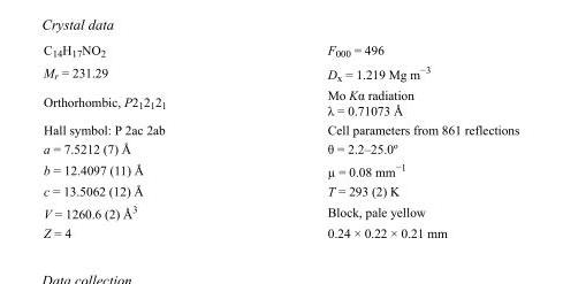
<table><tbody><tr><td>C<sub>14</sub>H<sub>17</sub>NO<sub>2</sub></td><td>F<sub>000</sub> = 496</td></tr><tr><td>M<sub>r</sub> = 231.29</td><td>D<sub>x</sub> = 1.219 Mg m<sup>−3</sup></td></tr><tr><td>Orthorhombic, P2<sub>1</sub>2<sub>1</sub>2<sub>1</sub></td><td>Mo Kα radiation λ = 0.71073 Å</td></tr><tr><td>Hall symbol: P 2ac 2ab</td><td>Cell parameters from 861 reflections</td></tr><tr><td>a = 7.5212 (7) Å</td><td>θ = 2.2–25.0º</td></tr><tr><td>b = 12.4097 (11) Å</td><td>µ = 0.08 mm<sup>−1</sup></td></tr><tr><td>c = 13.5062 (12) Å</td><td>T = 293 (2) K</td></tr><tr><td>V = 1260.6 (2) Å<sup>3</sup></td><td>Block, pale yellow</td></tr><tr><td>Z = 4</td><td>0.24 × 0.22 × 0.21 mm</td></tr></tbody></table>